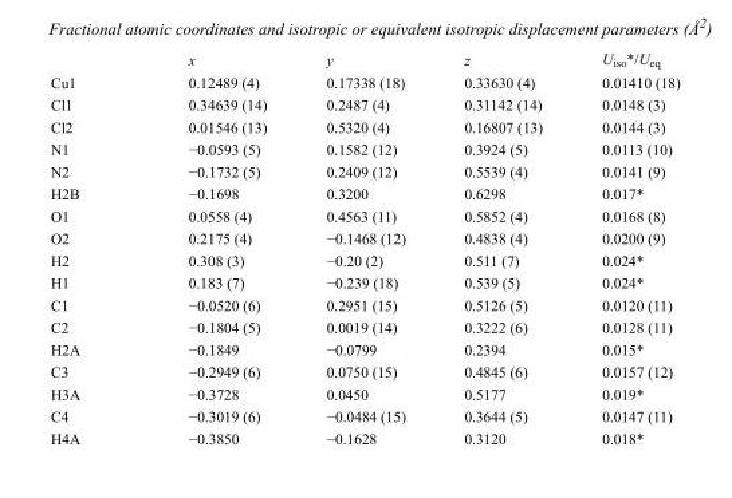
<table><thead><tr><td></td><td>x</td><td>y</td><td>z</td><td>U<sub>iso</sub>*/U<sub>eq</sub></td></tr></thead><tbody><tr><td>Cu1</td><td>0.12489 (4)</td><td>0.17338 (18)</td><td>0.33630 (4)</td><td>0.01410 (18)</td></tr><tr><td>Cl1</td><td>0.34639 (14)</td><td>0.2487 (4)</td><td>0.31142 (14)</td><td>0.0148 (3)</td></tr><tr><td>Cl2</td><td>0.01546 (13)</td><td>0.5320 (4)</td><td>0.16807 (13)</td><td>0.0144 (3)</td></tr><tr><td>N1</td><td>−0.0593 (5)</td><td>0.1582 (12)</td><td>0.3924 (5)</td><td>0.0113 (10)</td></tr><tr><td>N2</td><td>−0.1732 (5)</td><td>0.2409 (12)</td><td>0.5539 (4)</td><td>0.0141 (9)</td></tr><tr><td>H2B</td><td>−0.1698</td><td>0.3200</td><td>0.6298</td><td>0.017*</td></tr><tr><td>O1</td><td>0.0558 (4)</td><td>0.4563 (11)</td><td>0.5852 (4)</td><td>0.0168 (8)</td></tr><tr><td>O2</td><td>0.2175 (4)</td><td>−0.1468 (12)</td><td>0.4838 (4)</td><td>0.0200 (9)</td></tr><tr><td>H2</td><td>0.308 (3)</td><td>−0.20 (2)</td><td>0.511 (7)</td><td>0.024*</td></tr><tr><td>H1</td><td>0.183 (7)</td><td>−0.239 (18)</td><td>0.539 (5)</td><td>0.024*</td></tr><tr><td>C1</td><td>−0.0520 (6)</td><td>0.2951 (15)</td><td>0.5126 (5)</td><td>0.0120 (11)</td></tr><tr><td>C2</td><td>−0.1804 (5)</td><td>0.0019 (14)</td><td>0.3222 (6)</td><td>0.0128 (11)</td></tr><tr><td>H2A</td><td>−0.1849</td><td>−0.0799</td><td>0.2394</td><td>0.015*</td></tr><tr><td>C3</td><td>−0.2949 (6)</td><td>0.0750 (15)</td><td>0.4845 (6)</td><td>0.0157 (12)</td></tr><tr><td>H3A</td><td>−0.3728</td><td>0.0450</td><td>0.5177</td><td>0.019*</td></tr><tr><td>C4</td><td>−0.3019 (6)</td><td>−0.0484 (15)</td><td>0.3644 (5)</td><td>0.0147 (11)</td></tr><tr><td>H4A</td><td>−0.3850</td><td>−0.1628</td><td>0.3120</td><td>0.018*</td></tr></tbody></table>